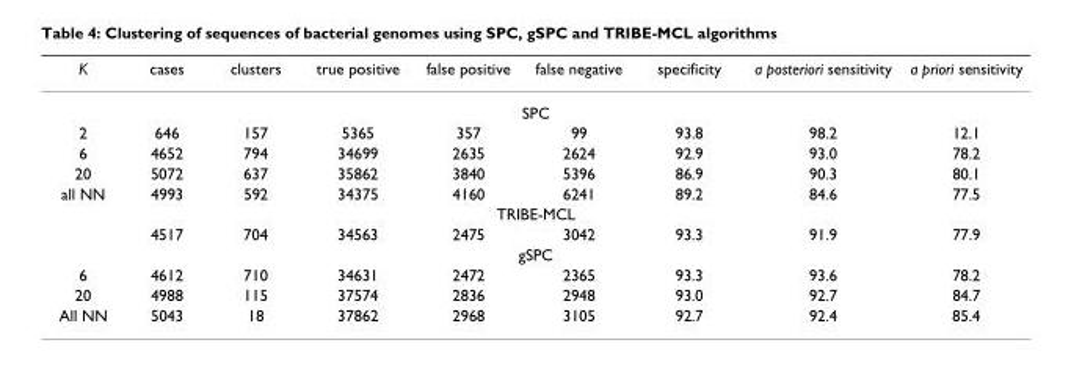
<table><thead><tr><td>K</td><td>cases</td><td>clusters</td><td>true positive</td><td>false positive</td><td>false negative</td><td>specificity</td><td>a posteriori sensitivity</td><td>a priori sensitivity</td></tr></thead><tbody><tr><td colspan="9">SPC</td></tr><tr><td>2</td><td>646</td><td>157</td><td>5365</td><td>357</td><td>99</td><td>93.8</td><td>98.2</td><td>12.1</td></tr><tr><td>6</td><td>4652</td><td>794</td><td>34699</td><td>2635</td><td>2624</td><td>92.9</td><td>93.0</td><td>78.2</td></tr><tr><td>20</td><td>5072</td><td>637</td><td>35862</td><td>3840</td><td>5396</td><td>86.9</td><td>90.3</td><td>80.1</td></tr><tr><td>all NN</td><td>4993</td><td>592</td><td>34375</td><td>4160</td><td>6241</td><td>89.2</td><td>84.6</td><td>77.5</td></tr><tr><td colspan="9">TRIBE-MCL</td></tr><tr><td></td><td>4517</td><td>704</td><td>34563</td><td>2475</td><td>3042</td><td>93.3</td><td>91.9</td><td>77.9</td></tr><tr><td colspan="9">gSPC</td></tr><tr><td>6</td><td>4612</td><td>710</td><td>34631</td><td>2472</td><td>2365</td><td>93.3</td><td>93.6</td><td>78.2</td></tr><tr><td>20</td><td>4988</td><td>115</td><td>37574</td><td>2836</td><td>2948</td><td>93.0</td><td>92.7</td><td>84.7</td></tr><tr><td>All NN</td><td>5043</td><td>18</td><td>37862</td><td>2968</td><td>3105</td><td>92.7</td><td>92.4</td><td>85.4</td></tr></tbody></table>